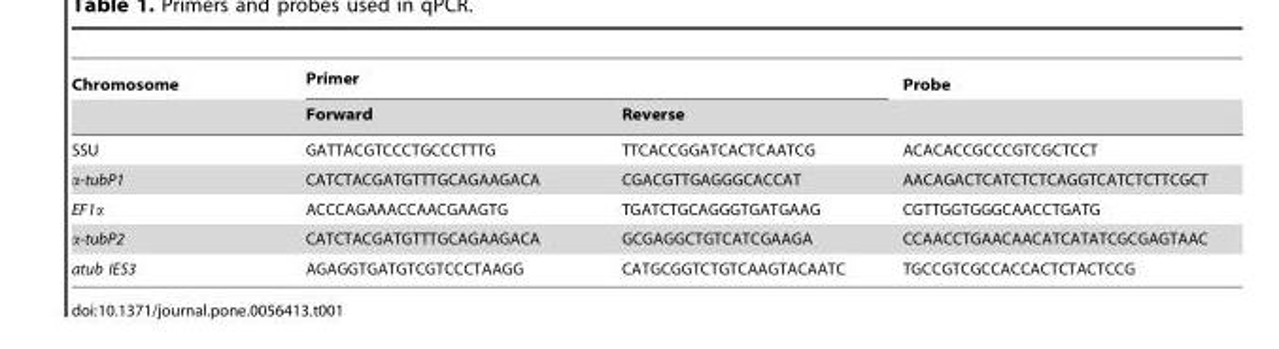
<table><thead><tr><td rowspan="2">Chromosome</td><td colspan="2">Primer</td><td rowspan="2">Probe</td></tr><tr><td>Forward</td><td>Reverse</td></tr></thead><tbody><tr><td>SSU</td><td>GATTACGTCCCTGCCCTTTG</td><td>TTCACCGGATCACTCAATCG</td><td>ACACACCGCCCGTCGCTCCT</td></tr><tr><td>α-tubP1</td><td>CATCTACGATGTTTGCAGAAGACA</td><td>CGACGTTGAGGGCACCAT</td><td>AACAGACTCATCTCTCAGGTCATCTCTTCGCT</td></tr><tr><td>EF1α</td><td>ACCCAGAAACCAACGAAGTG</td><td>TGATCTGCAGGGTGATGAAG</td><td>CGTTGGTGGGCAACCTGATG</td></tr><tr><td>α-tubP2</td><td>CATCTACGATGTTTGCAGAAGACA</td><td>GCGAGGCTGTCATCGAAGA</td><td>CCAACCTGAACAACATCATATCGCGAGTAAC</td></tr><tr><td>atub IES3</td><td>AGAGGTGATGTCGTCCCTAAGG</td><td>CATGCGGTCTGTCAAGTACAATC</td><td>TGCCGTCGCCACCACTCTACTCCG</td></tr></tbody></table>